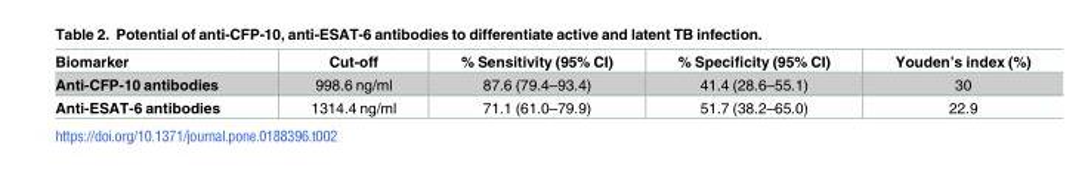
<table><thead><tr><td>Biomarker</td><td>Cut-off</td><td>% Sensitivity (95% CI)</td><td>% Specificity (95% CI)</td><td>Youden’s index (%)</td></tr></thead><tbody><tr><td>Anti-CFP-10 antibodies</td><td>998.6 ng/ml</td><td>87.6 (79.4–93.4)</td><td>41.4 (28.6–55.1)</td><td>30</td></tr><tr><td>Anti-ESAT-6 antibodies</td><td>1314.4 ng/ml</td><td>71.1 (61.0–79.9)</td><td>51.7 (38.2–65.0)</td><td>22.9</td></tr></tbody></table>